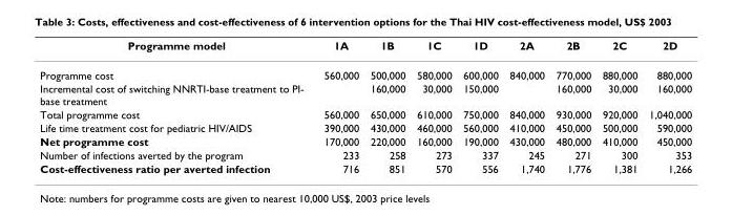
<table><thead><tr><td>Programme model</td><td>1A</td><td>1B</td><td>1C</td><td>1D</td><td>2A</td><td>2B</td><td>2C</td><td>2D</td></tr></thead><tbody><tr><td>Programme cost</td><td>560,000</td><td>500,000</td><td>580,000</td><td>600,000</td><td>840,000</td><td>770,000</td><td>880,000</td><td>880,000</td></tr><tr><td>Incremental cost of switching NNRTI-base treatment to PI- base treatment</td><td></td><td>160,000</td><td>30,000</td><td>150,000</td><td></td><td>160,000</td><td>30,000</td><td>160,000</td></tr><tr><td>Total programme cost</td><td>560,000</td><td>650,000</td><td>610,000</td><td>750,000</td><td>840,000</td><td>930,000</td><td>920,000</td><td>1,040,000</td></tr><tr><td>Life time treatment cost for pediatric HIV/AIDS</td><td>390,000</td><td>430,000</td><td>460,000</td><td>560,000</td><td>410,000</td><td>450,000</td><td>500,000</td><td>590,000</td></tr><tr><td>Net programme cost</td><td>170,000</td><td>220,000</td><td>160,000</td><td>190,000</td><td>430,000</td><td>480,000</td><td>410,000</td><td>450,000</td></tr><tr><td>Number of infections averted by the program</td><td>233</td><td>258</td><td>273</td><td>337</td><td>245</td><td>271</td><td>300</td><td>353</td></tr><tr><td>Cost-effectiveness ratio per averted infection</td><td>716</td><td>851</td><td>570</td><td>556</td><td>1,740</td><td>1,776</td><td>1,381</td><td>1,266</td></tr></tbody></table>